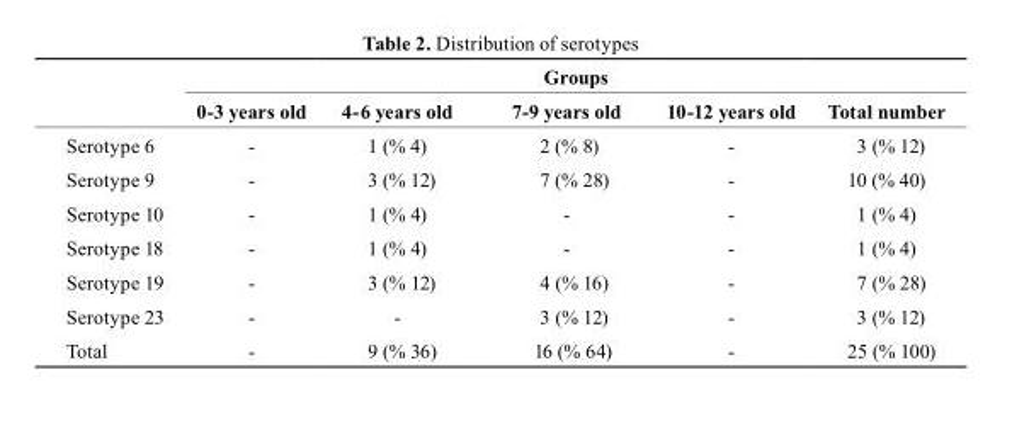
<table><thead><tr><td rowspan="2"></td><td colspan="5">Groups</td></tr><tr><td>0-3 years old</td><td>4-6 years old</td><td>7-9 years old</td><td>10-12 years old</td><td>total number</td></tr></thead><tbody><tr><td>Serotype 6</td><td>-</td><td>1 (% 4)</td><td>2 (% 8)</td><td>-</td><td>3 (% 12)</td></tr><tr><td>Serotype 9</td><td>-</td><td>3 (% 12)</td><td>7 (% 28)</td><td>-</td><td>10 (% 40)</td></tr><tr><td>Serotype 10</td><td>-</td><td>1 (% 4)</td><td>-</td><td>-</td><td>1 (% 4)</td></tr><tr><td>Serotype 18</td><td>-</td><td>1 (% 4)</td><td>-</td><td>-</td><td>1 (% 4)</td></tr><tr><td>Serotype 19</td><td>-</td><td>3 (% 12)</td><td>4 (% 16)</td><td>-</td><td>7 (% 28)</td></tr><tr><td>Serotype 23</td><td>-</td><td>-</td><td>3 (% 12)</td><td>-</td><td>3 (% 12)</td></tr><tr><td>Total</td><td>-</td><td>9 (% 36)</td><td>16 (% 64)</td><td>-</td><td>25 (% 100)</td></tr></tbody></table>